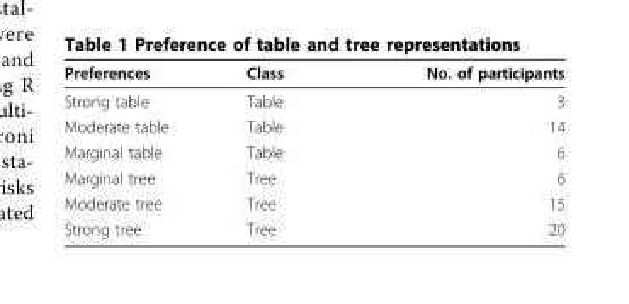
<table><thead><tr><td>Preferences</td><td>Class</td><td>No. of participants</td></tr></thead><tbody><tr><td>Strong table</td><td>Table</td><td>3</td></tr><tr><td>Moderate table</td><td>Table</td><td>14</td></tr><tr><td>Marginal table</td><td>Table</td><td>6</td></tr><tr><td>Marginal tree</td><td>Tree</td><td>6</td></tr><tr><td>Moderate tree</td><td>Tree</td><td>15</td></tr><tr><td>Strong tree</td><td>Tree</td><td>20</td></tr></tbody></table>